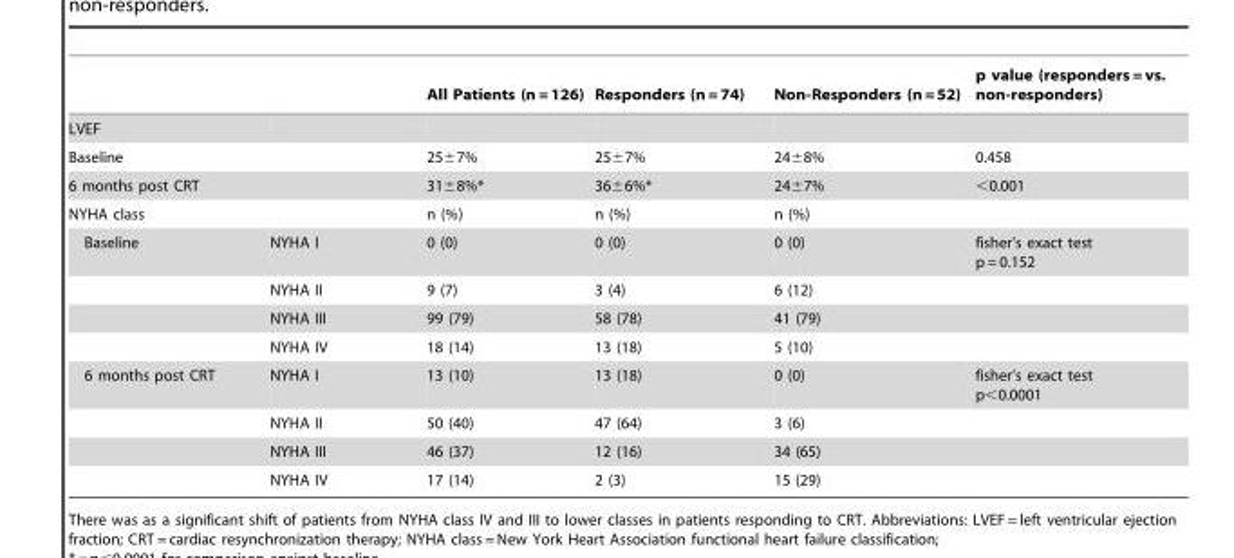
<table><thead><tr><td></td><td></td><td>All Patients (n = 126)</td><td>Responders (n = 74)</td><td>Non-Responders (n = 52)</td><td>p value (responders = vs. non-responders)</td></tr></thead><tbody><tr><td colspan="6">LVEF</td></tr><tr><td colspan="2">Baseline</td><td>25±7%</td><td>25±7%</td><td>24±8%</td><td>0.458</td></tr><tr><td colspan="2">6 months post CRT</td><td>31±8%*</td><td>36±6%*</td><td>24±7%</td><td>&lt;0.001</td></tr><tr><td colspan="2">NYHA class</td><td>n (%)</td><td>n (%)</td><td>n (%)</td><td></td></tr><tr><td rowspan="4">Baseline</td><td>NYHA I</td><td>0 (0)</td><td>0 (0)</td><td>0 (0)</td><td>fisher’s exact test p = 0.152</td></tr><tr><td>NYHA II</td><td>9 (7)</td><td>3 (4)</td><td>6 (12)</td><td></td></tr><tr><td>NYHA III</td><td>99 (79)</td><td>58 (78)</td><td>41 (79)</td><td></td></tr><tr><td>NYHA IV</td><td>18 (14)</td><td>13 (18)</td><td>5 (10)</td><td></td></tr><tr><td rowspan="4">6 months post CRT</td><td>NYHA I</td><td>13 (10)</td><td>13 (18)</td><td>0 (0)</td><td>fisher’s exact test p&lt;0.0001</td></tr><tr><td>NYHA II</td><td>50 (40)</td><td>47 (64)</td><td>3 (6)</td><td></td></tr><tr><td>NYHA III</td><td>46 (37)</td><td>12 (16)</td><td>34 (65)</td><td></td></tr><tr><td>NYHA IV</td><td>17 (14)</td><td>2 (3)</td><td>15 (29)</td><td></td></tr></tbody></table>